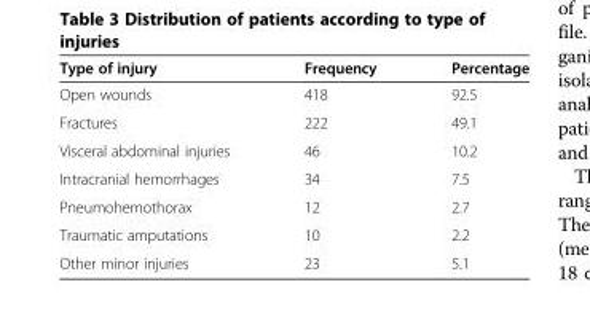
<table><thead><tr><td>Type of injury</td><td>Frequency</td><td>Percentage</td></tr></thead><tbody><tr><td>Open wounds</td><td>418</td><td>92.5</td></tr><tr><td>Fractures</td><td>222</td><td>49.1</td></tr><tr><td>Visceral abdominal injuries</td><td>46</td><td>10.2</td></tr><tr><td>Intracranial hemorrhages</td><td>34</td><td>7.5</td></tr><tr><td>Pneumohemothorax</td><td>12</td><td>2.7</td></tr><tr><td>Traumatic amputations</td><td>10</td><td>2.2</td></tr><tr><td>Other minor injuries</td><td>23</td><td>5.1</td></tr></tbody></table>